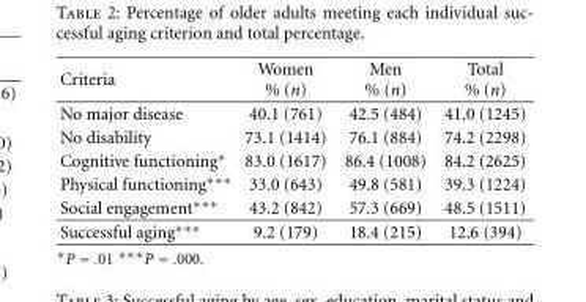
<table><thead><tr><td>Criteria</td><td>Women % (n)</td><td>Men % (n)</td><td>Total % (n)</td></tr></thead><tbody><tr><td>No major disease</td><td>40.1 (761)</td><td>42.5 (484)</td><td>41.0 (1245)</td></tr><tr><td>No disability</td><td>73.1 (1414)</td><td>76.1 (884)</td><td>74.2 (2298)</td></tr><tr><td>Cognitive functioning∗</td><td>83.0 (1617)</td><td>86.4 (1008)</td><td>84.2 (2625)</td></tr><tr><td>Physical functioning∗∗∗</td><td>33.0 (643)</td><td>49.8 (581)</td><td>39.3 (1224)</td></tr><tr><td>Social engagement∗∗∗</td><td>43.2 (842)</td><td>57.3 (669)</td><td>48.5 (1511)</td></tr><tr><td>Successful aging∗∗∗</td><td>9.2 (179)</td><td>18.4 (215)</td><td>12.6 (394)</td></tr></tbody></table>